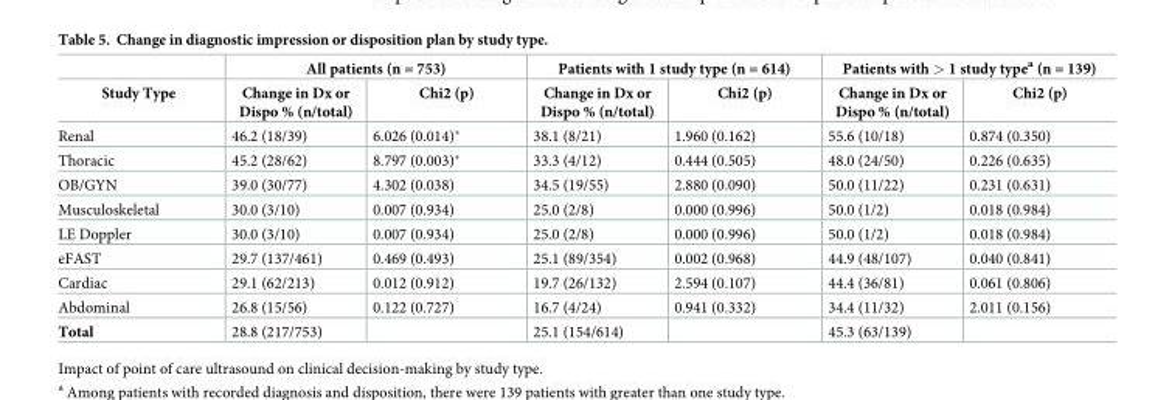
<table><thead><tr><td rowspan="2">Study Type</td><td colspan="2">All patients (n = 753)</td><td colspan="2">Patients with 1 study type (n = 614)</td><td colspan="2">Patients with &gt; 1 study type<sup>a</sup> (n = 139)</td></tr><tr><td>Change in Dx or Dispo % (n/total)</td><td>Chi2 (p)</td><td>Change in Dx or Dispo % (n/total)</td><td>Chi2 (p)</td><td>Change in Dx or Dispo % (n/total)</td><td>Chi2 (p)</td></tr></thead><tbody><tr><td>Renal</td><td>46.2 (18/39)</td><td>6.026 (0.014)*</td><td>38.1 (8/21)</td><td>1.960 (0.162)</td><td>55.6 (10/18)</td><td>0.874 (0.350)</td></tr><tr><td>Thoracic</td><td>45.2 (28/62)</td><td>8.797 (0.003)*</td><td>33.3 (4/12)</td><td>0.444 (0.505)</td><td>48.0 (24/50)</td><td>0.226 (0.635)</td></tr><tr><td>OB/GYN</td><td>39.0 (30/77)</td><td>4.302 (0.038)</td><td>34.5 (19/55)</td><td>2.880 (0.090)</td><td>50.0 (11/22)</td><td>0.231 (0.631)</td></tr><tr><td>Musculoskeletal</td><td>30.0 (3/10)</td><td>0.007 (0.934)</td><td>25.0 (2/8)</td><td>0.000 (0.996)</td><td>50.0 (1/2)</td><td>0.018 (0.984)</td></tr><tr><td>LE Doppler</td><td>30.0 (3/10)</td><td>0.007 (0.934)</td><td>25.0 (2/8)</td><td>0.000 (0.996)</td><td>50.0 (1/2)</td><td>0.018 (0.984)</td></tr><tr><td>eFAST</td><td>29.7 (137/461)</td><td>0.469 (0.493)</td><td>25.1 (89/354)</td><td>0.002 (0.968)</td><td>44.9 (48/107)</td><td>0.040 (0.841)</td></tr><tr><td>Cardiac</td><td>29.1 (62/213)</td><td>0.012 (0.912)</td><td>19.7 (26/132)</td><td>2.594 (0.107)</td><td>44.4 (36/81)</td><td>0.061 (0.806)</td></tr><tr><td>Abdominal</td><td>26.8 (15/56)</td><td>0.122 (0.727)</td><td>16.7 (4/24)</td><td>0.941 (0.332)</td><td>34.4 (11/32)</td><td>2.011 (0.156)</td></tr><tr><td>Total</td><td>28.8 (217/753)</td><td></td><td>25.1 (154/614)</td><td></td><td>45.3 (63/139)</td><td></td></tr></tbody></table>